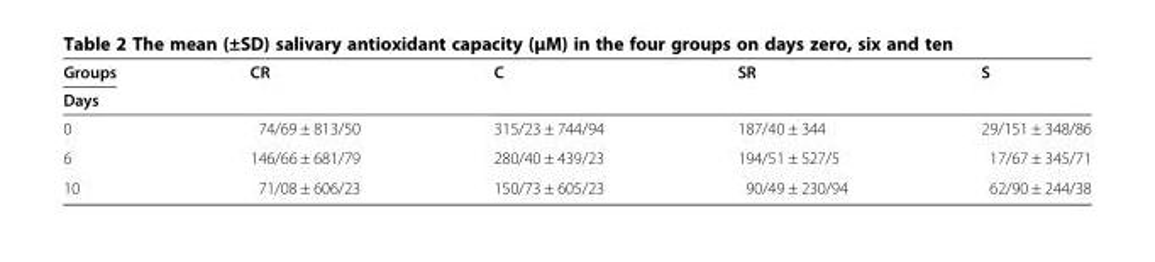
<table><thead><tr><td rowspan="2">Groups Days</td><td rowspan="2">CR</td><td rowspan="2">C</td><td rowspan="2">SR</td><td rowspan="2">S</td></tr><tr></tr></thead><tbody><tr><td>0</td><td>74/69 ± 813/50</td><td>315/23 ± 744/94</td><td>187/40 ± 344</td><td>29/151 ± 348/86</td></tr><tr><td>6</td><td>146/66 ± 681/79</td><td>280/40 ± 439/23</td><td>194/51 ± 527/5</td><td>17/67 ± 345/71</td></tr><tr><td>10</td><td>71/08 ± 606/23</td><td>150/73 ± 605/23</td><td>90/49 ± 230/94</td><td>62/90 ± 244/38</td></tr></tbody></table>